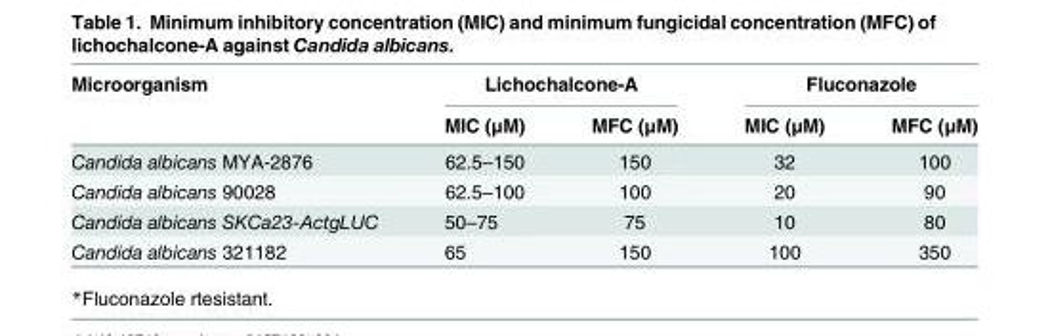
<table><thead><tr><td rowspan="2">Microorganism</td><td colspan="2">Lichochalcone-A</td><td colspan="2">Fluconazole</td></tr><tr><td>MIC (μM)</td><td>MFC (μM)</td><td>MIC (μM)</td><td>MFC (μM)</td></tr></thead><tbody><tr><td>Candida albicans MYA-2876</td><td>62.5–150</td><td>150</td><td>32</td><td>100</td></tr><tr><td>Candida albicans 90028</td><td>62.5–100</td><td>100</td><td>20</td><td>90</td></tr><tr><td>Candida albicans SKCa23-ActgLUC</td><td>50–75</td><td>75</td><td>10</td><td>80</td></tr><tr><td>Candida albicans 321182</td><td>65</td><td>150</td><td>100</td><td>350</td></tr></tbody></table>